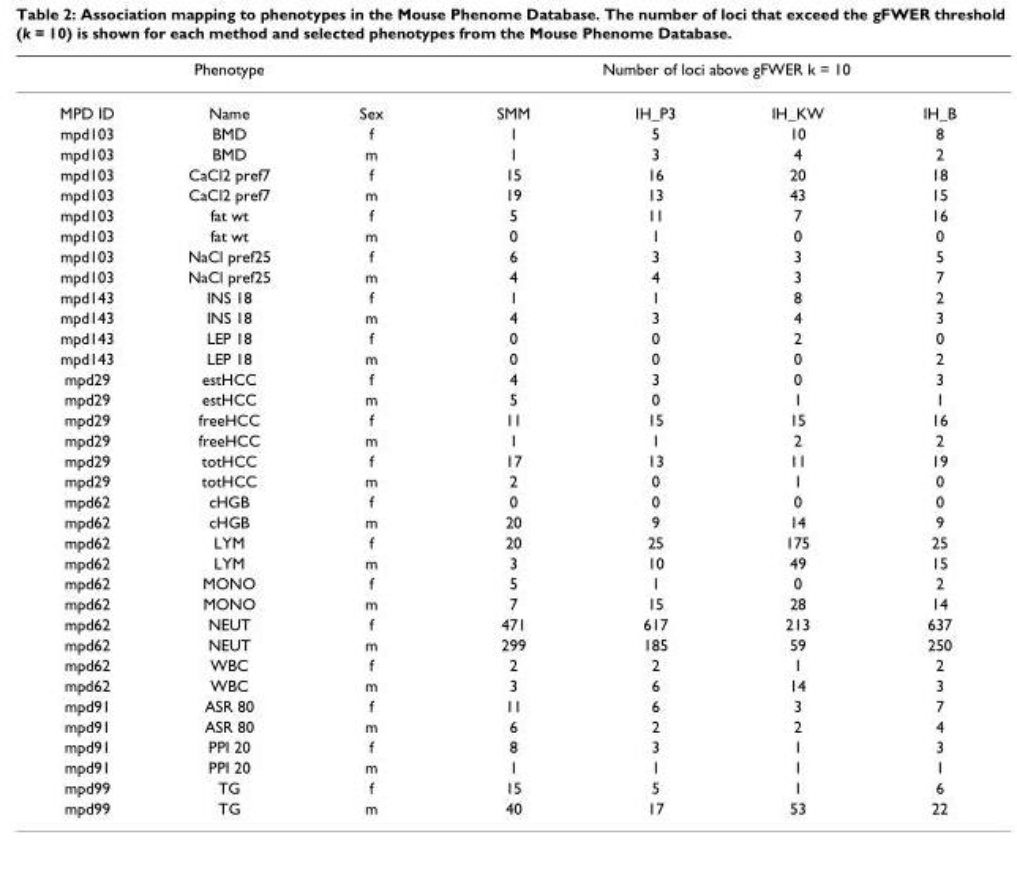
<table><thead><tr><td colspan="3">Phenotype</td><td colspan="4">Number of loci above gFWER k = 10</td></tr><tr><td>MPD ID</td><td>Name</td><td>Sex</td><td>SMM</td><td>IH_P3</td><td>IH_KW</td><td>IH_B</td></tr></thead><tbody><tr><td>mpd103</td><td>BMD</td><td>f</td><td>1</td><td>5</td><td>10</td><td>8</td></tr><tr><td>mpd103</td><td>BMD</td><td>m</td><td>1</td><td>3</td><td>4</td><td>2</td></tr><tr><td>mpd103</td><td>CaCl2 pref7</td><td>f</td><td>15</td><td>16</td><td>20</td><td>18</td></tr><tr><td>mpd103</td><td>CaCl2 pref7</td><td>m</td><td>19</td><td>13</td><td>43</td><td>15</td></tr><tr><td>mpd103</td><td>fat wt</td><td>f</td><td>5</td><td>11</td><td>7</td><td>16</td></tr><tr><td>mpd103</td><td>fat wt</td><td>m</td><td>0</td><td>1</td><td>0</td><td>0</td></tr><tr><td>mpd103</td><td>NaCl pref25</td><td>f</td><td>6</td><td>3</td><td>3</td><td>5</td></tr><tr><td>mpd103</td><td>NaCl pref25</td><td>m</td><td>4</td><td>4</td><td>3</td><td>7</td></tr><tr><td>mpd143</td><td>INS 18</td><td>f</td><td>1</td><td>1</td><td>8</td><td>2</td></tr><tr><td>mpd143</td><td>INS 18</td><td>m</td><td>4</td><td>3</td><td>4</td><td>3</td></tr><tr><td>mpd143</td><td>LEP 18</td><td>f</td><td>0</td><td>0</td><td>2</td><td>0</td></tr><tr><td>mpd143</td><td>LEP 18</td><td>m</td><td>0</td><td>0</td><td>0</td><td>2</td></tr><tr><td>mpd29</td><td>estHCC</td><td>f</td><td>4</td><td>3</td><td>0</td><td>3</td></tr><tr><td>mpd29</td><td>estHCC</td><td>m</td><td>5</td><td>0</td><td>1</td><td>1</td></tr><tr><td>mpd29</td><td>freeHCC</td><td>f</td><td>11</td><td>15</td><td>15</td><td>16</td></tr><tr><td>mpd29</td><td>freeHCC</td><td>m</td><td>1</td><td>1</td><td>2</td><td>2</td></tr><tr><td>mpd29</td><td>totHCC</td><td>f</td><td>17</td><td>13</td><td>11</td><td>19</td></tr><tr><td>mpd29</td><td>totHCC</td><td>m</td><td>2</td><td>0</td><td>1</td><td>0</td></tr><tr><td>mpd62</td><td>cHGB</td><td>f</td><td>0</td><td>0</td><td>0</td><td>0</td></tr><tr><td>mpd62</td><td>cHGB</td><td>m</td><td>20</td><td>9</td><td>14</td><td>9</td></tr><tr><td>mpd62</td><td>LYM</td><td>f</td><td>20</td><td>25</td><td>175</td><td>25</td></tr><tr><td>mpd62</td><td>LYM</td><td>m</td><td>3</td><td>10</td><td>49</td><td>15</td></tr><tr><td>mpd62</td><td>MONO</td><td>f</td><td>5</td><td>1</td><td>0</td><td>2</td></tr><tr><td>mpd62</td><td>MONO</td><td>m</td><td>7</td><td>15</td><td>28</td><td>14</td></tr><tr><td>mpd62</td><td>NEUT</td><td>f</td><td>471</td><td>617</td><td>213</td><td>637</td></tr><tr><td>mpd62</td><td>NEUT</td><td>m</td><td>299</td><td>185</td><td>59</td><td>250</td></tr><tr><td>mpd62</td><td>WBC</td><td>f</td><td>2</td><td>2</td><td>1</td><td>2</td></tr><tr><td>mpd62</td><td>WBC</td><td>m</td><td>3</td><td>6</td><td>14</td><td>3</td></tr><tr><td>mpd91</td><td>ASR 80</td><td>f</td><td>11</td><td>6</td><td>3</td><td>7</td></tr><tr><td>mpd91</td><td>ASR 80</td><td>m</td><td>6</td><td>2</td><td>2</td><td>4</td></tr><tr><td>mpd91</td><td>PPI 20</td><td>f</td><td>8</td><td>3</td><td>1</td><td>3</td></tr><tr><td>mpd91</td><td>PPI 20</td><td>m</td><td>1</td><td>1</td><td>1</td><td>1</td></tr><tr><td>mpd99</td><td>TG</td><td>f</td><td>15</td><td>5</td><td>1</td><td>6</td></tr><tr><td>mpd99</td><td>TG</td><td>m</td><td>40</td><td>17</td><td>53</td><td>22</td></tr></tbody></table>